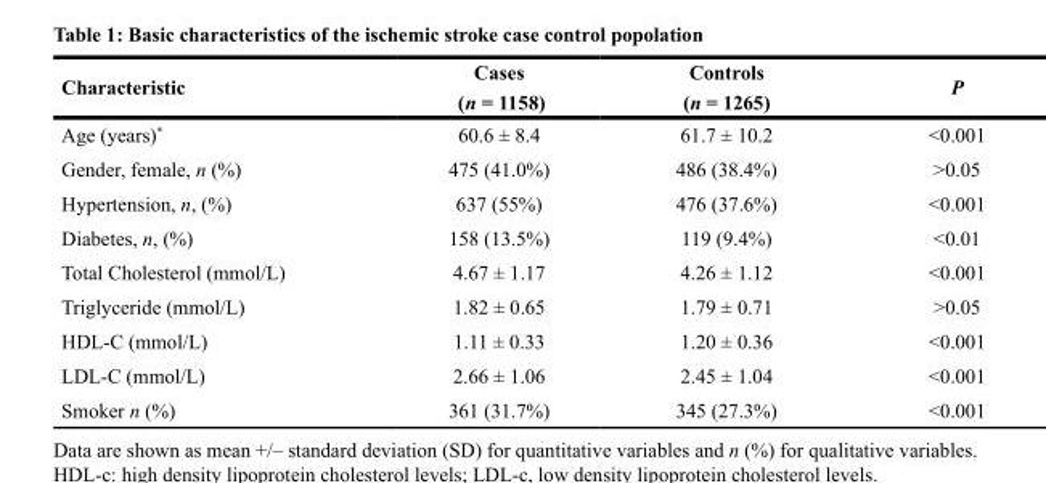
<table><thead><tr><td>Characteristic</td><td>Cases (n = 1158)</td><td>Controls (n = 1265)</td><td>P</td></tr></thead><tbody><tr><td>Age (years)*</td><td>60.6 ± 8.4</td><td>61.7 ± 10.2</td><td>&lt;0.001</td></tr><tr><td>Gender, female, n (%)</td><td>475 (41.0%)</td><td>486 (38.4%)</td><td>&gt;0.05</td></tr><tr><td>Hypertension, n, (%)</td><td>637 (55%)</td><td>476 (37.6%)</td><td>&lt;0.001</td></tr><tr><td>Diabetes, n, (%)</td><td>158 (13.5%)</td><td>119 (9.4%)</td><td>&lt;0.01</td></tr><tr><td>Total Cholesterol (mmol/L)</td><td>4.67 ± 1.17</td><td>4.26 ± 1.12</td><td>&lt;0.001</td></tr><tr><td>Triglyceride (mmol/L)</td><td>1.82 ± 0.65</td><td>1.79 ± 0.71</td><td>&gt;0.05</td></tr><tr><td>HDL-C (mmol/L)</td><td>1.11 ± 0.33</td><td>1.20 ± 0.36</td><td>&lt;0.001</td></tr><tr><td>LDL-C (mmol/L)</td><td>2.66 ± 1.06</td><td>2.45 ± 1.04</td><td>&lt;0.001</td></tr><tr><td>Smoker n (%)</td><td>361 (31.7%)</td><td>345 (27.3%)</td><td>&lt;0.001</td></tr></tbody></table>